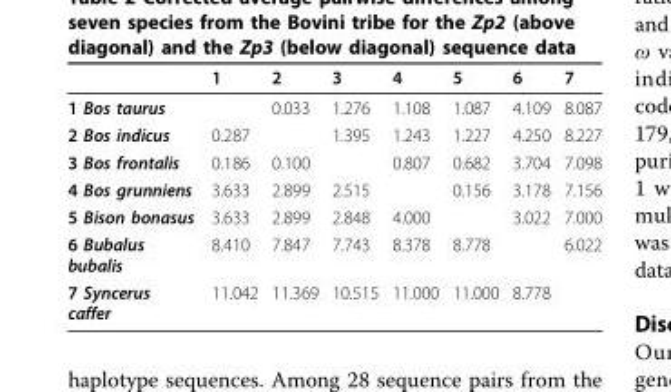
<table><thead><tr><td></td><td>1</td><td>2</td><td>3</td><td>4</td><td>5</td><td>6</td><td>7</td></tr></thead><tbody><tr><td>1 Bos taurus</td><td></td><td>0.033</td><td>1.276</td><td>1.108</td><td>1.087</td><td>4.109</td><td>8.087</td></tr><tr><td>2 Bos indicus</td><td>0.287</td><td></td><td>1.395</td><td>1.243</td><td>1.227</td><td>4.250</td><td>8.227</td></tr><tr><td>3 Bos frontalis</td><td>0.186</td><td>0.100</td><td></td><td>0.807</td><td>0.682</td><td>3.704</td><td>7.098</td></tr><tr><td>4 Bos grunniens</td><td>3.633</td><td>2.899</td><td>2.515</td><td></td><td>0.156</td><td>3.178</td><td>7.156</td></tr><tr><td>5 Bison bonasus</td><td>3.633</td><td>2.899</td><td>2.848</td><td>4.000</td><td></td><td>3.022</td><td>7.000</td></tr><tr><td>6 Bubalus bubalis</td><td>8.410</td><td>7.847</td><td>7.743</td><td>8.378</td><td>8.778</td><td></td><td>6.022</td></tr><tr><td>7 Syncerus caffer</td><td>11.042</td><td>11.369</td><td>10.515</td><td>11.000</td><td>11.000</td><td>8.778</td><td></td></tr></tbody></table>